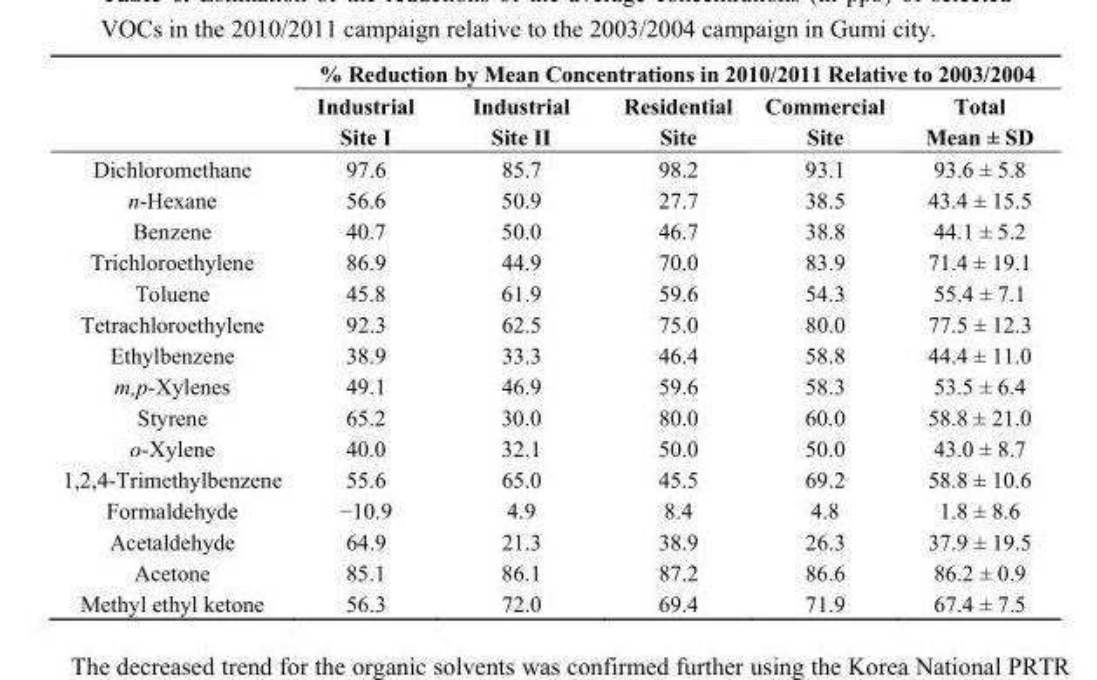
<table><thead><tr><td rowspan="2"></td><td colspan="5">% Reduction by Mean Concentrations in 2010/2011 Relative to 2003/2004</td></tr><tr><td>Industrial Site I</td><td>Industrial Site II</td><td>Residential Site</td><td>Commercial Site</td><td>Total Mean ± SD</td></tr></thead><tbody><tr><td>Dichloromethane</td><td>97.6</td><td>85.7</td><td>98.2</td><td>93.1</td><td>93.6 ± 5.8</td></tr><tr><td>n-Hexane</td><td>56.6</td><td>50.9</td><td>27.7</td><td>38.5</td><td>43.4 ± 15.5</td></tr><tr><td>Benzene</td><td>40.7</td><td>50.0</td><td>46.7</td><td>38.8</td><td>44.1 ± 5.2</td></tr><tr><td>Trichloroethylene</td><td>86.9</td><td>44.9</td><td>70.0</td><td>83.9</td><td>71.4 ± 19.1</td></tr><tr><td>Toluene</td><td>45.8</td><td>61.9</td><td>59.6</td><td>54.3</td><td>55.4 ± 7.1</td></tr><tr><td>Tetrachloroethylene</td><td>92.3</td><td>62.5</td><td>75.0</td><td>80.0</td><td>77.5 ± 12.3</td></tr><tr><td>Ethylbenzene</td><td>38.9</td><td>33.3</td><td>46.4</td><td>58.8</td><td>44.4 ± 11.0</td></tr><tr><td>m,p-Xylenes</td><td>49.1</td><td>46.9</td><td>59.6</td><td>58.3</td><td>53.5 ± 6.4</td></tr><tr><td>Styrene</td><td>65.2</td><td>30.0</td><td>80.0</td><td>60.0</td><td>58.8 ± 21.0</td></tr><tr><td>o-Xylene</td><td>40.0</td><td>32.1</td><td>50.0</td><td>50.0</td><td>43.0 ± 8.7</td></tr><tr><td>1,2,4-Trimethylbenzene</td><td>55.6</td><td>65.0</td><td>45.5</td><td>69.2</td><td>58.8 ± 10.6</td></tr><tr><td>Formaldehyde</td><td>−10.9</td><td>4.9</td><td>8.4</td><td>4.8</td><td>1.8 ± 8.6</td></tr><tr><td>Acetaldehyde</td><td>64.9</td><td>21.3</td><td>38.9</td><td>26.3</td><td>37.9 ± 19.5</td></tr><tr><td>Acetone</td><td>85.1</td><td>86.1</td><td>87.2</td><td>86.6</td><td>86.2 ± 0.9</td></tr><tr><td>Methyl ethyl ketone</td><td>56.3</td><td>72.0</td><td>69.4</td><td>71.9</td><td>67.4 ± 7.5</td></tr></tbody></table>